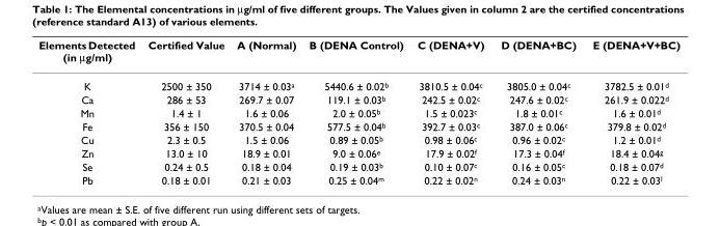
<table><thead><tr><td>Elements Detected (in µg/ml)</td><td>Certified Value</td><td>A (Normal)</td><td>B (DENA Control)</td><td>C (DENA+V)</td><td>D (DENA+BC)</td><td>E (DENA+V+BC)</td></tr></thead><tbody><tr><td>K</td><td>2500 ± 350</td><td>3714 ± 0.03<sup>a</sup></td><td>5440.6 ± 0.02<sup>b</sup></td><td>3810.5 ± 0.04<sup>c</sup></td><td>3805.0 ± 0.04<sup>c</sup></td><td>3782.5 ± 0.01<sup>d</sup></td></tr><tr><td>Ca</td><td>286 ± 53</td><td>269.7 ± 0.07</td><td>119.1 ± 0.03<sup>b</sup></td><td>242.5 ± 0.02<sup>c</sup></td><td>247.6 ± 0.02<sup>c</sup></td><td>261.9 ± 0.022<sup>d</sup></td></tr><tr><td>Mn</td><td>1.4 ± 1</td><td>1.6 ± 0.06</td><td>2.0 ± 0.05<sup>b</sup></td><td>1.5 ± 0.023<sup>c</sup></td><td>1.8 ± 0.01<sup>c</sup></td><td>1.6 ± 0.01<sup>d</sup></td></tr><tr><td>Fe</td><td>356 ± 150</td><td>370.5 ± 0.04</td><td>577.5 ± 0.04<sup>b</sup></td><td>392.7 ± 0.03<sup>c</sup></td><td>387.0 ± 0.06<sup>c</sup></td><td>379.8 ± 0.02<sup>d</sup></td></tr><tr><td>Cu</td><td>2.3 ± 0.5</td><td>1.5 ± 0.06</td><td>0.89 ± 0.05<sup>b</sup></td><td>0.98 ± 0.06<sup>c</sup></td><td>0.96 ± 0.02<sup>c</sup></td><td>1.2 ± 0.01<sup>d</sup></td></tr><tr><td>Zn</td><td>13.0 ± 10</td><td>18.9 ± 0.01</td><td>9.0 ± 0.06<sup>e</sup></td><td>17.9 ± 0.02<sup>f</sup></td><td>17.3 ± 0.04<sup>f</sup></td><td>18.4 ± 0.04<sup>g</sup></td></tr><tr><td>Se</td><td>0.24 ± 0.5</td><td>0.18 ± 0.04</td><td>0.19 ± 0.03<sup>b</sup></td><td>0.10 ± 0.07<sup>c</sup></td><td>0.16 ± 0.05<sup>c</sup></td><td>0.18 ± 0.07<sup>d</sup></td></tr><tr><td>Pb</td><td>0.18 ± 0.01</td><td>0.21 ± 0.03</td><td>0.25 ± 0.04<sup>m</sup></td><td>0.22 ± 0.02<sup>n</sup></td><td>0.24 ± 0.03<sup>n</sup></td><td>0.22 ± 0.03<sup>l</sup></td></tr></tbody></table>